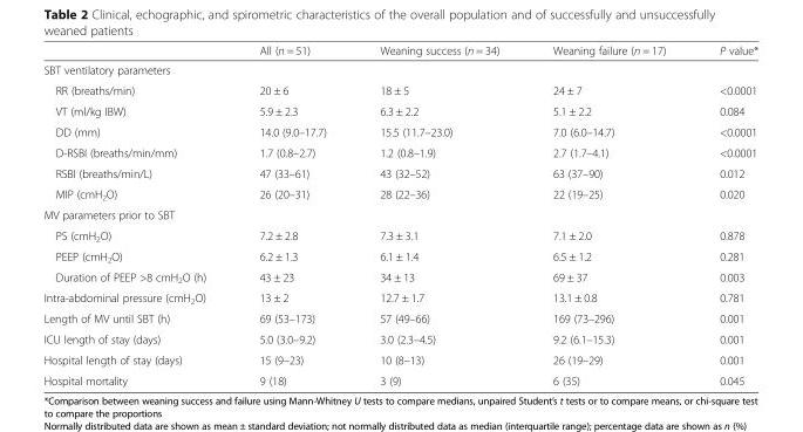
<table><thead><tr><td></td><td>All (n = 51)</td><td>Weaning success (n = 34)</td><td>Weaning failure (n = 17)</td><td>P value*</td></tr></thead><tbody><tr><td colspan="5">SBT ventilatory parameters</td></tr><tr><td>RR (breaths/min)</td><td>20 ± 6</td><td>18 ± 5</td><td>24 ± 7</td><td>&lt;0.0001</td></tr><tr><td>VT (ml/kg IBW)</td><td>5.9 ± 2.3</td><td>6.3 ± 2.2</td><td>5.1 ± 2.2</td><td>0.084</td></tr><tr><td>DD (mm)</td><td>14.0 (9.0–17.7)</td><td>15.5 (11.7–23.0)</td><td>7.0 (6.0–14.7)</td><td>&lt;0.0001</td></tr><tr><td>D-RSBI (breaths/min/mm)</td><td>1.7 (0.8–2.7)</td><td>1.2 (0.8–1.9)</td><td>2.7 (1.7–4.1)</td><td>&lt;0.0001</td></tr><tr><td>RSBI (breaths/min/L)</td><td>47 (33–61)</td><td>43 (32–52)</td><td>63 (37–90)</td><td>0.012</td></tr><tr><td>MIP (cmH<sub>2</sub>O)</td><td>26 (20–31)</td><td>28 (22–36)</td><td>22 (19–25)</td><td>0.020</td></tr><tr><td colspan="5">MV parameters prior to SBT</td></tr><tr><td>PS (cmH<sub>2</sub>O)</td><td>7.2 ± 2.8</td><td>7.3 ± 3.1</td><td>7.1 ± 2.0</td><td>0.878</td></tr><tr><td>PEEP (cmH<sub>2</sub>O)</td><td>6.2 ± 1.3</td><td>6.1 ± 1.4</td><td>6.5 ± 1.2</td><td>0.281</td></tr><tr><td>Duration of PEEP &gt;8 cmH<sub>2</sub>O (h)</td><td>43 ± 23</td><td>34 ± 13</td><td>69 ± 37</td><td>0.003</td></tr><tr><td>Intra-abdominal pressure (cmH<sub>2</sub>O)</td><td>13 ± 2</td><td>12.7 ± 1.7</td><td>13.1 ± 0.8</td><td>0.781</td></tr><tr><td>Length of MV until SBT (h)</td><td>69 (53–173)</td><td>57 (49–66)</td><td>169 (73–296)</td><td>0.001</td></tr><tr><td>ICU length of stay (days)</td><td>5.0 (3.0–9.2)</td><td>3.0 (2.3–4.5)</td><td>9.2 (6.1–15.3)</td><td>0.001</td></tr><tr><td>Hospital length of stay (days)</td><td>15 (9–23)</td><td>10 (8–13)</td><td>26 (19–29)</td><td>0.001</td></tr><tr><td>Hospital mortality</td><td>9 (18)</td><td>3 (9)</td><td>6 (35)</td><td>0.045</td></tr></tbody></table>